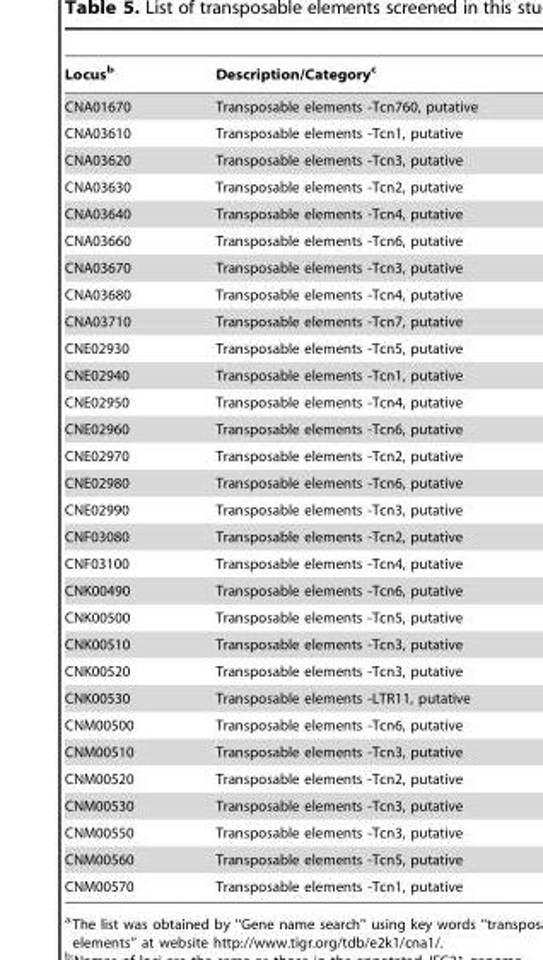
<table><thead><tr><td>Locus<sup>b</sup></td><td>Description/Category<sup>c</sup></td></tr></thead><tbody><tr><td>CNA01670</td><td>Transposable elements -Tcn760, putative</td></tr><tr><td>CNA03610</td><td>Transposable elements -Tcn1, putative</td></tr><tr><td>CNA03620</td><td>Transposable elements -Tcn3, putative</td></tr><tr><td>CNA03630</td><td>Transposable elements -Tcn2, putative</td></tr><tr><td>CNA03640</td><td>Transposable elements -Tcn4, putative</td></tr><tr><td>CNA03660</td><td>Transposable elements -Tcn6, putative</td></tr><tr><td>CNA03670</td><td>Transposable elements -Tcn3, putative</td></tr><tr><td>CNA03680</td><td>Transposable elements -Tcn4, putative</td></tr><tr><td>CNA03710</td><td>Transposable elements -Tcn7, putative</td></tr><tr><td>CNE02930</td><td>Transposable elements -Tcn5, putative</td></tr><tr><td>CNE02940</td><td>Transposable elements -Tcn1, putative</td></tr><tr><td>CNE02950</td><td>Transposable elements -Tcn4, putative</td></tr><tr><td>CNE02960</td><td>Transposable elements -Tcn6, putative</td></tr><tr><td>CNE02970</td><td>Transposable elements -Tcn2, putative</td></tr><tr><td>CNE02980</td><td>Transposable elements -Tcn6, putative</td></tr><tr><td>CNE02990</td><td>Transposable elements -Tcn3, putative</td></tr><tr><td>CNF03080</td><td>Transposable elements -Tcn2, putative</td></tr><tr><td>CNF03100</td><td>Transposable elements -Tcn4, putative</td></tr><tr><td>CNK00490</td><td>Transposable elements -Tcn6, putative</td></tr><tr><td>CNK00500</td><td>Transposable elements -Tcn5, putative</td></tr><tr><td>CNK00510</td><td>Transposable elements -Tcn3, putative</td></tr><tr><td>CNK00520</td><td>Transposable elements -Tcn3, putative</td></tr><tr><td>CNK00530</td><td>Transposable elements -LTR11, putative</td></tr><tr><td>CNM00500</td><td>Transposable elements -Tcn6, putative</td></tr><tr><td>CNM00510</td><td>Transposable elements -Tcn3, putative</td></tr><tr><td>CNM00520</td><td>Transposable elements -Tcn2, putative</td></tr><tr><td>CNM00530</td><td>Transposable elements -Tcn3, putative</td></tr><tr><td>CNM00550</td><td>Transposable elements -Tcn3, putative</td></tr><tr><td>CNM00560</td><td>Transposable elements -Tcn5, putative</td></tr><tr><td>CNM00570</td><td>Transposable elements -Tcn1, putative</td></tr></tbody></table>